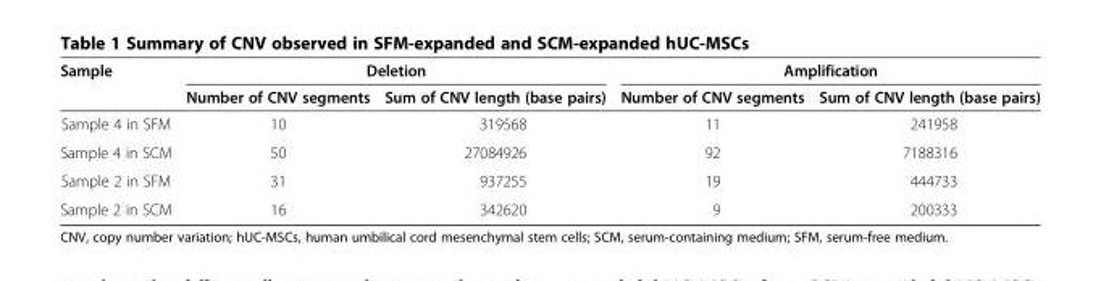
<table><thead><tr><td rowspan="2">Sample</td><td colspan="2">Deletion</td><td colspan="2">Amplification</td></tr><tr><td>Number of CNV segments</td><td>Sum of CNV length (base pairs)</td><td>Number of CNV segments</td><td>Sum of CNV length (base pairs)</td></tr></thead><tbody><tr><td>Sample 4 in SFM</td><td>10</td><td>319568</td><td>11</td><td>241958</td></tr><tr><td>Sample 4 in SCM</td><td>50</td><td>27084926</td><td>92</td><td>7188316</td></tr><tr><td>Sample 2 in SFM</td><td>31</td><td>937255</td><td>19</td><td>444733</td></tr><tr><td>Sample 2 in SCM</td><td>16</td><td>342620</td><td>9</td><td>200333</td></tr></tbody></table>